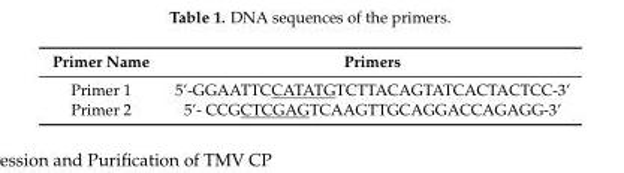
<table><thead><tr><td>Primer Name</td><td>Primers</td></tr></thead><tbody><tr><td>Primer 1</td><td>5’-GGAATTCCATATGTCTTACAGTATCACTACTCC-3’</td></tr><tr><td>Primer 2</td><td>5’- CCGCTCGAGTCAAGTTGCAGGACCAGAGG-3’</td></tr></tbody></table>